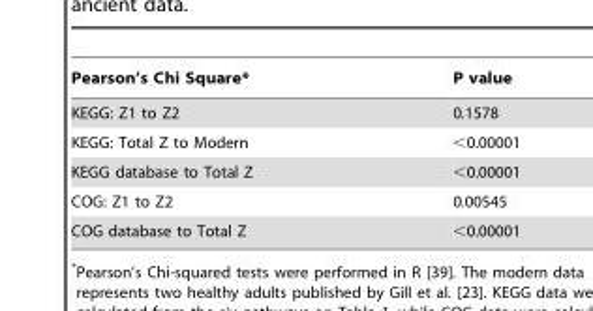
<table><thead><tr><td>Pearson’s Chi Square*</td><td>P value</td></tr></thead><tbody><tr><td>KEGG: Z1 to Z2</td><td>0.1578</td></tr><tr><td>KEGG: Total Z to Modern</td><td>&lt;0.00001</td></tr><tr><td>KEGG database to Total Z</td><td>&lt;0.00001</td></tr><tr><td>COG: Z1 to Z2</td><td>0.00545</td></tr><tr><td>COG database to Total Z</td><td>&lt;0.00001</td></tr></tbody></table>